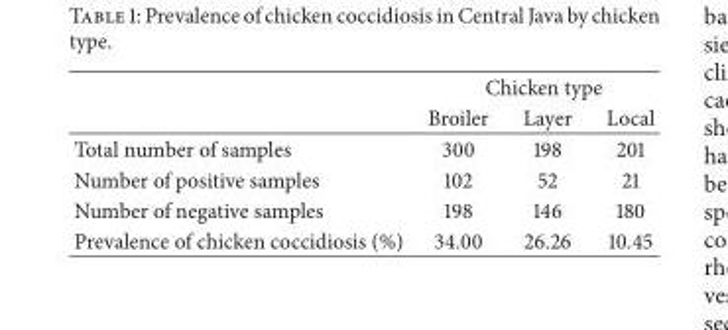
<table><thead><tr><td rowspan="2"></td><td colspan="3">Chicken type</td></tr><tr><td>Broiler</td><td>Layer</td><td>Local</td></tr></thead><tbody><tr><td>Total number of samples</td><td>300</td><td>198</td><td>201</td></tr><tr><td>Number of positive samples</td><td>102</td><td>52</td><td>21</td></tr><tr><td>Number of negative samples</td><td>198</td><td>146</td><td>180</td></tr><tr><td>Prevalence of chicken coccidiosis (%)</td><td>34.00</td><td>26.26</td><td>10.45</td></tr></tbody></table>